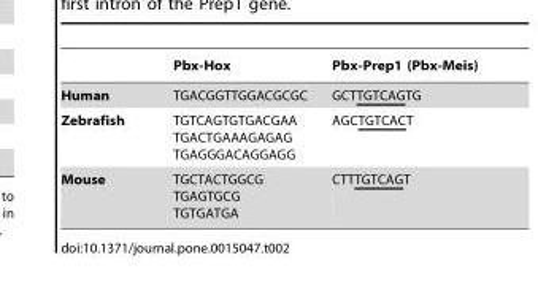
<table><thead><tr><td></td><td>Pbx-Hox</td><td>Pbx-Prep1 (Pbx-Meis)</td></tr></thead><tbody><tr><td>Human</td><td>TGACGGTTGGACGCGC</td><td>GCTTGTCAGTG</td></tr><tr><td>Zebrafish</td><td>TGTCAGTGTGACGAA TGACTGAAAGAGAG TGAGGGACAGGAGG</td><td>AGCTGTCACT</td></tr><tr><td>Mouse</td><td>TGCTACTGGCG TGAGTGCG TGTGATGA</td><td>CTTTGTCAGT</td></tr></tbody></table>